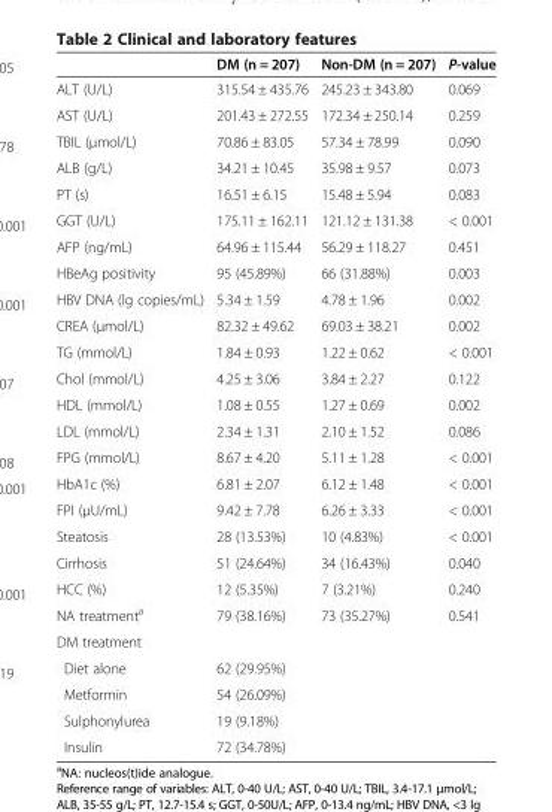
<table><thead><tr><td></td><td>DM (n = 207)</td><td>Non-DM (n = 207)</td><td>P-value</td></tr></thead><tbody><tr><td>ALT (U/L)</td><td>315.54 ± 435.76</td><td>245.23 ± 343.80</td><td>0.069</td></tr><tr><td>AST (U/L)</td><td>201.43 ± 272.55</td><td>172.34 ± 250.14</td><td>0.259</td></tr><tr><td>TBIL (μmol/L)</td><td>70.86 ± 83.05</td><td>57.34 ± 78.99</td><td>0.090</td></tr><tr><td>ALB (g/L)</td><td>34.21 ± 10.45</td><td>35.98 ± 9.57</td><td>0.073</td></tr><tr><td>PT (s)</td><td>16.51 ± 6.15</td><td>15.48 ± 5.94</td><td>0.083</td></tr><tr><td>GGT (U/L)</td><td>175.11 ± 162.11</td><td>121.12 ± 131.38</td><td>&lt; 0.001</td></tr><tr><td>AFP (ng/mL)</td><td>64.96 ± 115.44</td><td>56.29 ± 118.27</td><td>0.451</td></tr><tr><td>HBeAg positivity</td><td>95 (45.89%)</td><td>66 (31.88%)</td><td>0.003</td></tr><tr><td>HBV DNA (lg copies/mL)</td><td>5.34 ± 1.59</td><td>4.78 ± 1.96</td><td>0.002</td></tr><tr><td>CREA (μmol/L)</td><td>82.32 ± 49.62</td><td>69.03 ± 38.21</td><td>0.002</td></tr><tr><td>TG (mmol/L)</td><td>1.84 ± 0.93</td><td>1.22 ± 0.62</td><td>&lt; 0.001</td></tr><tr><td>Chol (mmol/L)</td><td>4.25 ± 3.06</td><td>3.84 ± 2.27</td><td>0.122</td></tr><tr><td>HDL (mmol/L)</td><td>1.08 ± 0.55</td><td>1.27 ± 0.69</td><td>0.002</td></tr><tr><td>LDL (mmol/L)</td><td>2.34 ± 1.31</td><td>2.10 ± 1.52</td><td>0.086</td></tr><tr><td>FPG (mmol/L)</td><td>8.67 ± 4.20</td><td>5.11 ± 1.28</td><td>&lt; 0.001</td></tr><tr><td>HbA1c (%)</td><td>6.81 ± 2.07</td><td>6.12 ± 1.48</td><td>&lt; 0.001</td></tr><tr><td>FPI (μU/mL)</td><td>9.42 ± 7.78</td><td>6.26 ± 3.33</td><td>&lt; 0.001</td></tr><tr><td>Steatosis</td><td>28 (13.53%)</td><td>10 (4.83%)</td><td>&lt; 0.001</td></tr><tr><td>Cirrhosis</td><td>51 (24.64%)</td><td>34 (16.43%)</td><td>0.040</td></tr><tr><td>HCC (%)</td><td>12 (5.35%)</td><td>7 (3.21%)</td><td>0.240</td></tr><tr><td>NA treatment<sup>a</sup></td><td>79 (38.16%)</td><td>73 (35.27%)</td><td>0.541</td></tr><tr><td colspan="4">DM treatment</td></tr><tr><td>Diet alone</td><td>62 (29.95%)</td><td></td><td></td></tr><tr><td>Metformin</td><td>54 (26.09%)</td><td></td><td></td></tr><tr><td>Sulphonylurea</td><td>19 (9.18%)</td><td></td><td></td></tr><tr><td>Insulin</td><td>72 (34.78%)</td><td></td><td></td></tr></tbody></table>